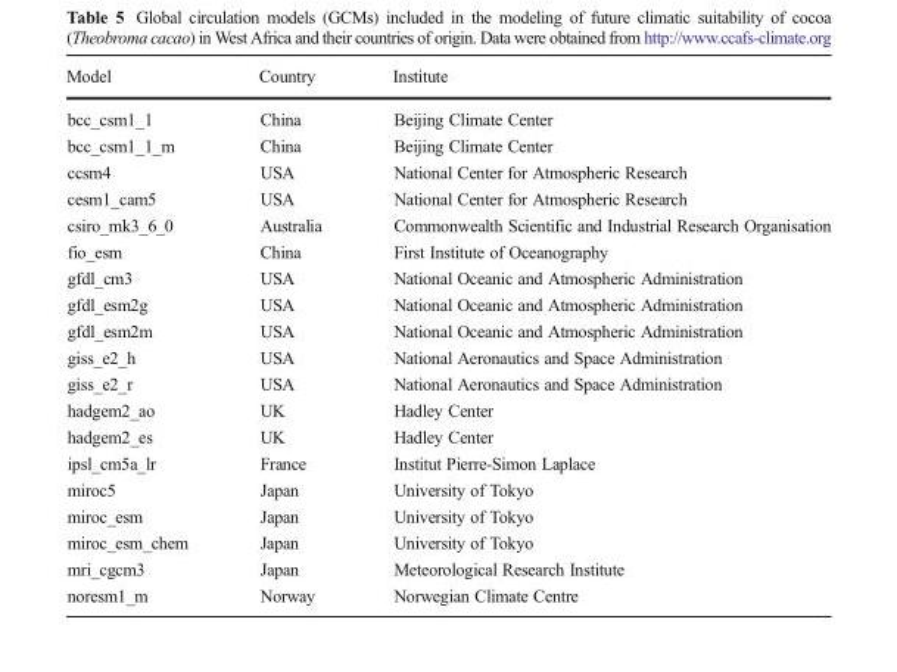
<table><thead><tr><td>Model</td><td>Country</td><td>Institute</td></tr></thead><tbody><tr><td>bcc_csm1_1</td><td>China</td><td>Beijing Climate Center</td></tr><tr><td>bcc_csm1_1_m</td><td>China</td><td>Beijing Climate Center</td></tr><tr><td>ccsm4</td><td>USA</td><td>National Center for Atmospheric Research</td></tr><tr><td>cesm1_cam5</td><td>USA</td><td>National Center for Atmospheric Research</td></tr><tr><td>csiro_mk3_6_0</td><td>Australia</td><td>Commonwealth Scientific and Industrial Research Organisation</td></tr><tr><td>fio_esm</td><td>China</td><td>First Institute of Oceanography</td></tr><tr><td>gfdl_cm3</td><td>USA</td><td>National Oceanic and Atmospheric Administration</td></tr><tr><td>gfdl_esm2g</td><td>USA</td><td>National Oceanic and Atmospheric Administration</td></tr><tr><td>gfdl_esm2m</td><td>USA</td><td>National Oceanic and Atmospheric Administration</td></tr><tr><td>giss_e2_h</td><td>USA</td><td>National Aeronautics and Space Administration</td></tr><tr><td>giss_e2_r</td><td>USA</td><td>National Aeronautics and Space Administration</td></tr><tr><td>hadgem2_ao</td><td>UK</td><td>Hadley Center</td></tr><tr><td>hadgem2_es</td><td>UK</td><td>Hadley Center</td></tr><tr><td>ipsl_cm5a_lr</td><td>France</td><td>Institut Pierre-Simon Laplace</td></tr><tr><td>miroc5</td><td>Japan</td><td>University of Tokyo</td></tr><tr><td>miroc_esm</td><td>Japan</td><td>University of Tokyo</td></tr><tr><td>miroc_esm_chem</td><td>Japan</td><td>University of Tokyo</td></tr><tr><td>mri_cgcm3</td><td>Japan</td><td>Meteorological Research Institute</td></tr><tr><td>noresm1_m</td><td>Norway</td><td>Norwegian Climate Centre</td></tr></tbody></table>